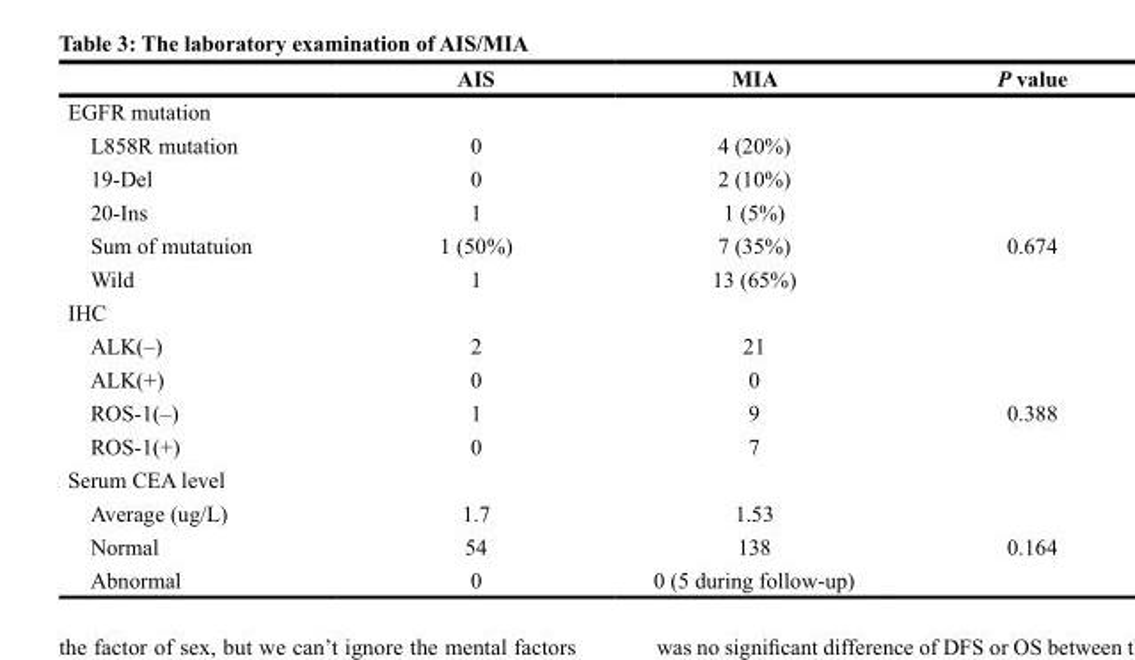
<table><thead><tr><td></td><td>AIS</td><td>MIA</td><td>P value</td></tr></thead><tbody><tr><td colspan="4">EGFR mutation</td></tr><tr><td>L858R mutation</td><td>0</td><td>4 (20%)</td><td></td></tr><tr><td>19-Del</td><td>0</td><td>2 (10%)</td><td></td></tr><tr><td>20-Ins</td><td>1</td><td>1 (5%)</td><td></td></tr><tr><td>Sum of mutatuion</td><td>1 (50%)</td><td>7 (35%)</td><td>0.674</td></tr><tr><td>Wild</td><td>1</td><td>13 (65%)</td><td></td></tr><tr><td colspan="4">IHC</td></tr><tr><td>ALK(–)</td><td>2</td><td>21</td><td></td></tr><tr><td>ALK(+)</td><td>0</td><td>0</td><td></td></tr><tr><td>ROS-1(–)</td><td>1</td><td>9</td><td>0.388</td></tr><tr><td>ROS-1(+)</td><td>0</td><td>7</td><td></td></tr><tr><td colspan="4">Serum CEA level</td></tr><tr><td>Average (ug/L)</td><td>1.7</td><td>1.53</td><td></td></tr><tr><td>Normal</td><td>54</td><td>138</td><td>0.164</td></tr><tr><td>Abnormal</td><td>0</td><td>0 (5 during follow-up)</td><td></td></tr></tbody></table>